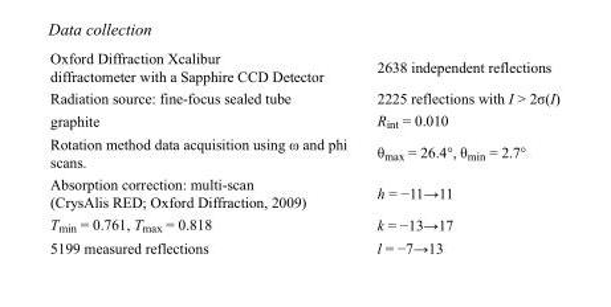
<table><tbody><tr><td>Oxford Diffraction Xcalibur diffractometer with a Sapphire CCD Detector</td><td>2638 independent reflections</td></tr><tr><td>Radiation source: fine-focus sealed tube</td><td>2225 reflections with I &gt; 2σ(I)</td></tr><tr><td>graphite</td><td>R<sub>int</sub> = 0.010</td></tr><tr><td>Rotation method data acquisition using ω and phi scans.</td><td>θ<sub>max</sub> = 26.4°, θ<sub>min</sub> = 2.7°</td></tr><tr><td>Absorption correction: multi-scan (CrysAlis RED; Oxford Diffraction, 2009)</td><td>h = −11→11</td></tr><tr><td>T<sub>min</sub> = 0.761, T<sub>max</sub> = 0.818</td><td>k = −13→17</td></tr><tr><td>5199 measured reflections</td><td>l = −7→13</td></tr></tbody></table>